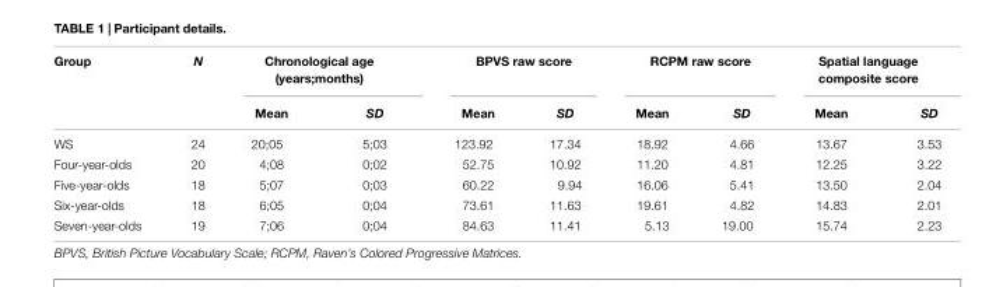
<table><thead><tr><td rowspan="2">Group</td><td rowspan="2">N</td><td colspan="2">Chronological age (years;months)</td><td colspan="2">BPVS raw score</td><td colspan="2">RCPM raw score</td><td colspan="2">Spatial language composite score</td></tr><tr><td>Mean</td><td>SD</td><td>Mean</td><td>SD</td><td>Mean</td><td>SD</td><td>Mean</td><td>SD</td></tr></thead><tbody><tr><td>WS</td><td>24</td><td>20;05</td><td>5;03</td><td>123.92</td><td>17.34</td><td>18.92</td><td>4.66</td><td>13.67</td><td>3.53</td></tr><tr><td>Four-year-olds</td><td>20</td><td>4;08</td><td>0;02</td><td>52.75</td><td>10.92</td><td>11.20</td><td>4.81</td><td>12.25</td><td>3.22</td></tr><tr><td>Five-year-olds</td><td>18</td><td>5;07</td><td>0;03</td><td>60.22</td><td>9.94</td><td>16.06</td><td>5.41</td><td>13.50</td><td>2.04</td></tr><tr><td>Six-year-olds</td><td>18</td><td>6;05</td><td>0;04</td><td>73.61</td><td>11.63</td><td>19.61</td><td>4.82</td><td>14.83</td><td>2.01</td></tr><tr><td>Seven-year-olds</td><td>19</td><td>7;06</td><td>0;04</td><td>84.63</td><td>11.41</td><td>5.13</td><td>19.00</td><td>15.74</td><td>2.23</td></tr></tbody></table>